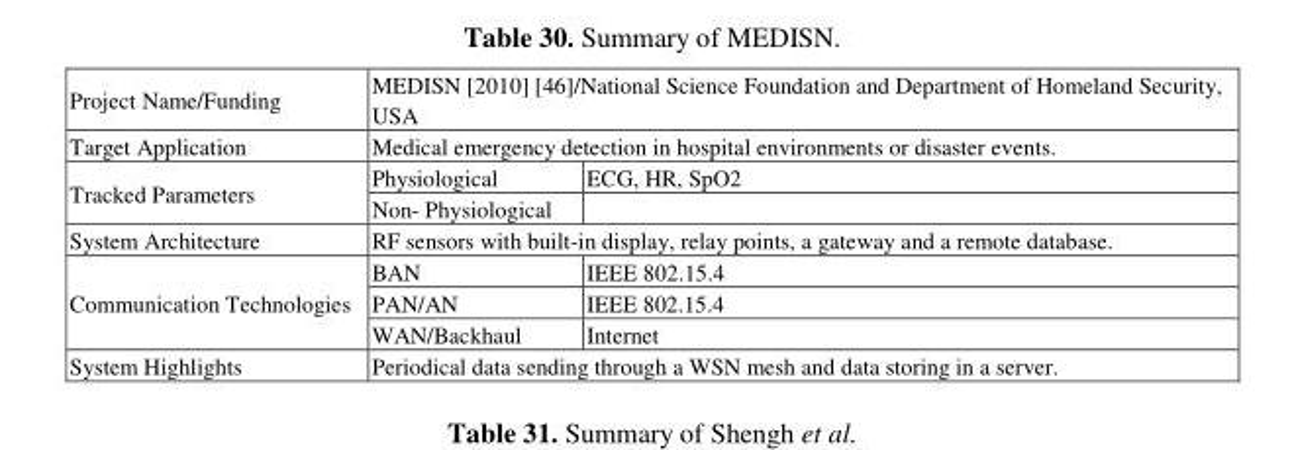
<table><tbody><tr><td>Project Name/Funding</td><td colspan="2">MEDISN [2010] [46]/National Science Foundation and Department of Homeland Security, USA</td></tr><tr><td>Target Application</td><td colspan="2">Medical emergency detection in hospital environments or disaster events.</td></tr><tr><td rowspan="2">Tracked Parameters</td><td>Physiological</td><td>ECG, HR, SpO2</td></tr><tr><td>Non- Physiological</td><td></td></tr><tr><td>System Architecture</td><td colspan="2">RF sensors with built-in display, relay points, a gateway and a remote database.</td></tr><tr><td rowspan="3">Communication Technologies</td><td>BAN</td><td>IEEE 802.15.4</td></tr><tr><td>PAN/AN</td><td>IEEE 802.15.4</td></tr><tr><td>WAN/Backhaul</td><td>Internet</td></tr><tr><td>System Highlights</td><td colspan="2">Periodical data sending through a WSN mesh and data storing in a server.</td></tr></tbody></table>